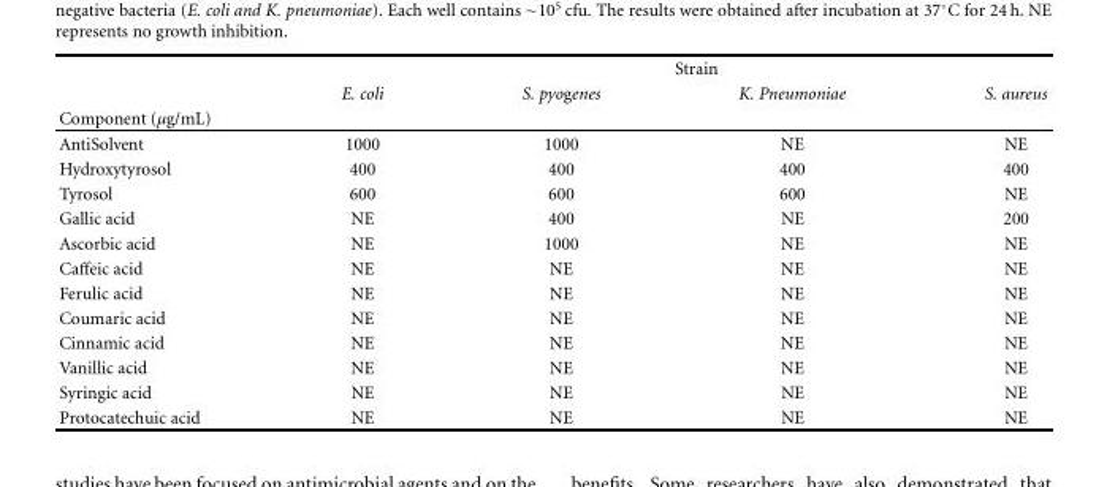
<table><thead><tr><td rowspan="3">Component (μg/mL)</td><td colspan="4">Strain</td></tr><tr><td rowspan="2">E. coli</td><td rowspan="2">S. pyogenes</td><td rowspan="2">K. Pneumoniae</td><td rowspan="2">S. aureus</td></tr><tr></tr></thead><tbody><tr><td>AntiSolvent</td><td>1000</td><td>1000</td><td>NE</td><td>NE</td></tr><tr><td>Hydroxytyrosol</td><td>400</td><td>400</td><td>400</td><td>400</td></tr><tr><td>Tyrosol</td><td>600</td><td>600</td><td>600</td><td>NE</td></tr><tr><td>Gallic acid</td><td>NE</td><td>400</td><td>NE</td><td>200</td></tr><tr><td>Ascorbic acid</td><td>NE</td><td>1000</td><td>NE</td><td>NE</td></tr><tr><td>Caffeic acid</td><td>NE</td><td>NE</td><td>NE</td><td>NE</td></tr><tr><td>Ferulic acid</td><td>NE</td><td>NE</td><td>NE</td><td>NE</td></tr><tr><td>Coumaric acid</td><td>NE</td><td>NE</td><td>NE</td><td>NE</td></tr><tr><td>Cinnamic acid</td><td>NE</td><td>NE</td><td>NE</td><td>NE</td></tr><tr><td>Vanillic acid</td><td>NE</td><td>NE</td><td>NE</td><td>NE</td></tr><tr><td>Syringic acid</td><td>NE</td><td>NE</td><td>NE</td><td>NE</td></tr><tr><td>Protocatechuic acid</td><td>NE</td><td>NE</td><td>NE</td><td>NE</td></tr></tbody></table>